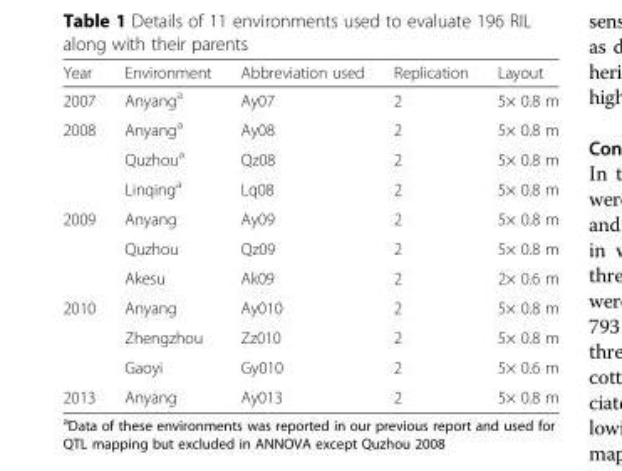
<table><thead><tr><td>Year</td><td>Environment</td><td>Abbreviation used</td><td>Replication</td><td>Layout</td></tr></thead><tbody><tr><td>2007</td><td>Anyang<sup>a</sup></td><td>Ay07</td><td>2</td><td>5× 0.8 m</td></tr><tr><td rowspan="3">2008</td><td>Anyang<sup>a</sup></td><td>Ay08</td><td>2</td><td>5× 0.8 m</td></tr><tr><td>Quzhou<sup>a</sup></td><td>Qz08</td><td>2</td><td>5× 0.8 m</td></tr><tr><td>Linqing<sup>a</sup></td><td>Lq08</td><td>2</td><td>5× 0.8 m</td></tr><tr><td rowspan="3">2009</td><td>Anyang</td><td>Ay09</td><td>2</td><td>5× 0.8 m</td></tr><tr><td>Quzhou</td><td>Qz09</td><td>2</td><td>5× 0.8 m</td></tr><tr><td>Akesu</td><td>Ak09</td><td>2</td><td>2× 0.6 m</td></tr><tr><td rowspan="3">2010</td><td>Anyang</td><td>Ay010</td><td>2</td><td>5× 0.8 m</td></tr><tr><td>Zhengzhou</td><td>Zz010</td><td>2</td><td>5× 0.8 m</td></tr><tr><td>Gaoyi</td><td>Gy010</td><td>2</td><td>5× 0.6 m</td></tr><tr><td>2013</td><td>Anyang</td><td>Ay013</td><td>2</td><td>5× 0.8 m</td></tr></tbody></table>